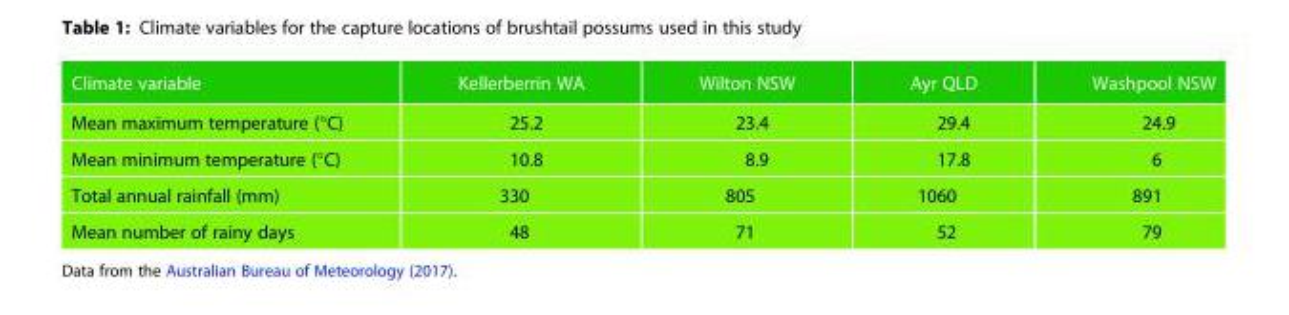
<table><thead><tr><td>Climate variable</td><td>Kellerberrin WA</td><td>Wilton NSW</td><td>Ayr QLD</td><td>Washpool NSW</td></tr></thead><tbody><tr><td>Mean maximum temperature (°C)</td><td>25.2</td><td>23.4</td><td>29.4</td><td>24.9</td></tr><tr><td>Mean minimum temperature (°C)</td><td>10.8</td><td>8.9</td><td>17.8</td><td>6</td></tr><tr><td>Total annual rainfall (mm)</td><td>330</td><td>805</td><td>1060</td><td>891</td></tr><tr><td>Mean number of rainy days</td><td>48</td><td>71</td><td>52</td><td>79</td></tr></tbody></table>